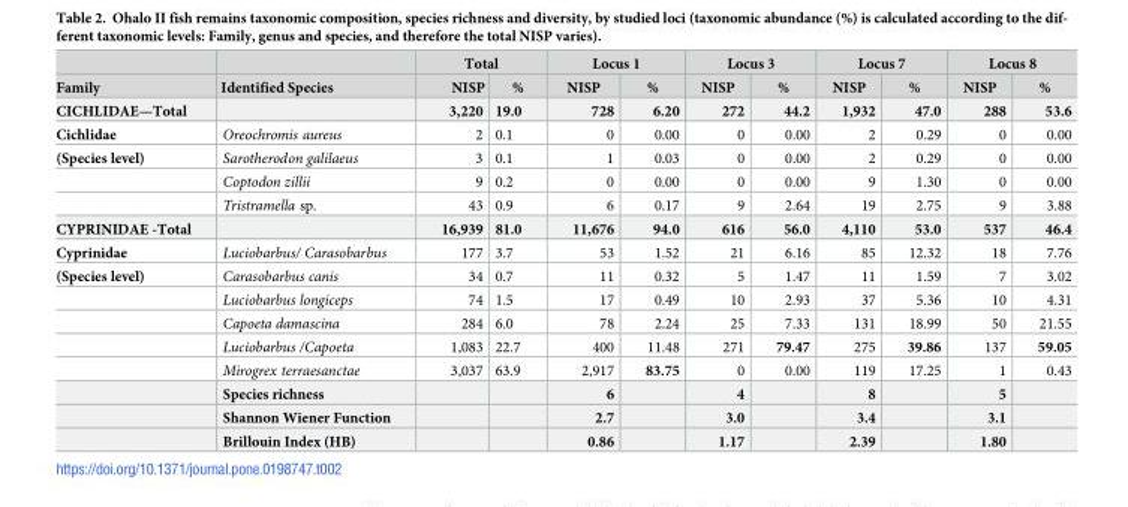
<table><thead><tr><td rowspan="2">Family</td><td rowspan="2">Identified Species</td><td colspan="2">Total</td><td colspan="2">Locus 1</td><td colspan="2">Locus 3</td><td colspan="2">Locus 7</td><td colspan="2">Locus 8</td></tr><tr><td>NISP</td><td>%</td><td>NISP</td><td>%</td><td>NISP</td><td>%</td><td>NISP</td><td>%</td><td>NISP</td><td>%</td></tr></thead><tbody><tr><td>CICHLIDAE—Total</td><td></td><td>3,220</td><td>19.0</td><td>728</td><td>6.20</td><td>272</td><td>44.2</td><td>1,932</td><td>47.0</td><td>288</td><td>53.6</td></tr><tr><td>Cichlidae</td><td>Oreochromis aureus</td><td>2</td><td>0.1</td><td>0</td><td>0.00</td><td>0</td><td>0.00</td><td>2</td><td>0.29</td><td>0</td><td>0.00</td></tr><tr><td rowspan="3">(Species level)</td><td>Sarotherodon galilaeus</td><td>3</td><td>0.1</td><td>1</td><td>0.03</td><td>0</td><td>0.00</td><td>2</td><td>0.29</td><td>0</td><td>0.00</td></tr><tr><td>Coptodon zillii</td><td>9</td><td>0.2</td><td>0</td><td>0.00</td><td>0</td><td>0.00</td><td>9</td><td>1.30</td><td>0</td><td>0.00</td></tr><tr><td>Tristramella sp.</td><td>43</td><td>0.9</td><td>6</td><td>0.17</td><td>9</td><td>2.64</td><td>19</td><td>2.75</td><td>9</td><td>3.88</td></tr><tr><td>CYPRINIDAE -Total</td><td></td><td>16,939</td><td>81.0</td><td>11,676</td><td>94.0</td><td>616</td><td>56.0</td><td>4,110</td><td>53.0</td><td>537</td><td>46.4</td></tr><tr><td>Cyprinidae</td><td>Luciobarbus/ Carasobarbus</td><td>177</td><td>3.7</td><td>53</td><td>1.52</td><td>21</td><td>6.16</td><td>85</td><td>12.32</td><td>18</td><td>7.76</td></tr><tr><td rowspan="8">(Species level)</td><td>Carasobarbus canis</td><td>34</td><td>0.7</td><td>11</td><td>0.32</td><td>5</td><td>1.47</td><td>11</td><td>1.59</td><td>7</td><td>3.02</td></tr><tr><td>Luciobarbus longiceps</td><td>74</td><td>1.5</td><td>17</td><td>0.49</td><td>10</td><td>2.93</td><td>37</td><td>5.36</td><td>10</td><td>4.31</td></tr><tr><td>Capoeta damascina</td><td>284</td><td>6.0</td><td>78</td><td>2.24</td><td>25</td><td>7.33</td><td>131</td><td>18.99</td><td>50</td><td>21.55</td></tr><tr><td>Luciobarbus /Capoeta</td><td>1,083</td><td>22.7</td><td>400</td><td>11.48</td><td>271</td><td>79.47</td><td>275</td><td>39.86</td><td>137</td><td>59.05</td></tr><tr><td>Mirogrex terraesanctae</td><td>3,037</td><td>63.9</td><td>2,917</td><td>83.75</td><td>0</td><td>0.00</td><td>119</td><td>17.25</td><td>1</td><td>0.43</td></tr><tr><td>Species richness</td><td></td><td></td><td>6</td><td></td><td>4</td><td></td><td>8</td><td></td><td>5</td><td></td></tr><tr><td>Shannon Wiener Function</td><td></td><td></td><td>2.7</td><td></td><td>3.0</td><td></td><td>3.4</td><td></td><td>3.1</td><td></td></tr><tr><td>Brillouin Index (HB)</td><td></td><td></td><td>0.86</td><td></td><td>1.17</td><td></td><td>2.39</td><td></td><td>1.80</td><td></td></tr></tbody></table>